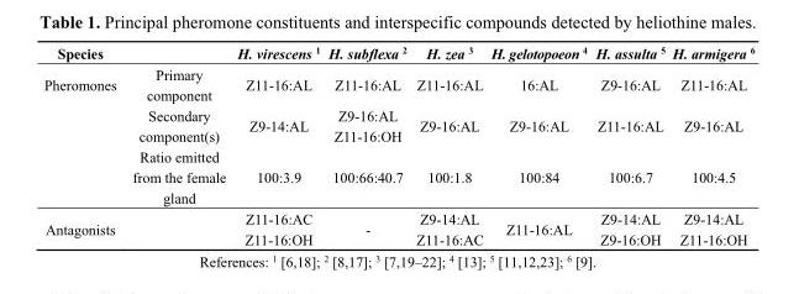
<table><thead><tr><td>Species</td><td></td><td>H. virescens <sup>1</sup></td><td>H. subflexa <sup>2</sup></td><td>H. zea <sup>3</sup></td><td>H. gelotopoeon <sup>4</sup></td><td>H. assulta <sup>5</sup></td><td>H. armigera <sup>6</sup></td></tr></thead><tbody><tr><td rowspan="3">Pheromones</td><td>Primary component</td><td>Z11-16:AL</td><td>Z11-16:AL</td><td>Z11-16:AL</td><td>16:AL</td><td>Z9-16:AL</td><td>Z11-16:AL</td></tr><tr><td>Secondary component(s)</td><td>Z9-14:AL</td><td>Z9-16:AL Z11-16:OH</td><td>Z9-16:AL</td><td>Z9-16:AL</td><td>Z11-16:AL</td><td>Z9-16:AL</td></tr><tr><td>Ratio emitted from the female gland</td><td>100:3.9</td><td>100:66:40.7</td><td>100:1.8</td><td>100:84</td><td>100:6.7</td><td>100:4.5</td></tr><tr><td>Antagonists</td><td></td><td>Z11-16:AC Z11-16:OH</td><td>-</td><td>Z9-14:AL Z11-16:AC</td><td>Z11-16:AL</td><td>Z9-14:AL Z9-16:OH</td><td>Z9-14:AL Z11-16:OH</td></tr></tbody></table>